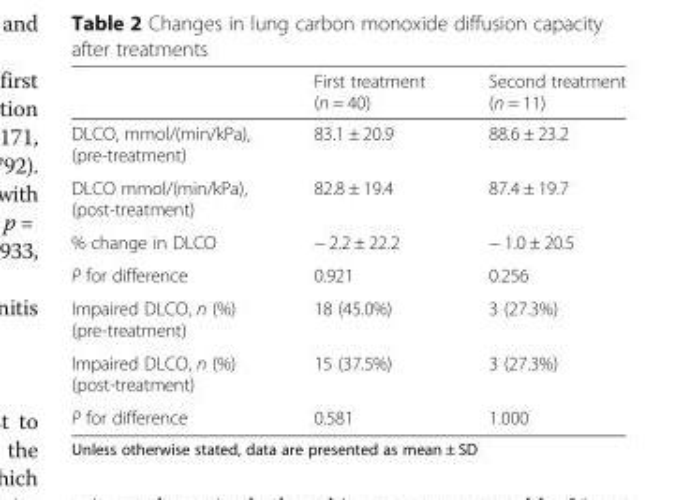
<table><thead><tr><td></td><td>First treatment (n = 40)</td><td>Second treatment (n = 11)</td></tr></thead><tbody><tr><td>DLCO, mmol/(min/kPa), (pre-treatment)</td><td>83.1 ± 20.9</td><td>88.6 ± 23.2</td></tr><tr><td>DLCO mmol/(min/kPa), (post-treatment)</td><td>82.8 ± 19.4</td><td>87.4 ± 19.7</td></tr><tr><td>% change in DLCO</td><td>− 2.2 ± 22.2</td><td>− 1.0 ± 20.5</td></tr><tr><td>P for difference</td><td>0.921</td><td>0.256</td></tr><tr><td>Impaired DLCO, n (%) (pre-treatment)</td><td>18 (45.0%)</td><td>3 (27.3%)</td></tr><tr><td>Impaired DLCO, n (%) (post-treatment)</td><td>15 (37.5%)</td><td>3 (27.3%)</td></tr><tr><td>P for difference</td><td>0.581</td><td>1.000</td></tr></tbody></table>